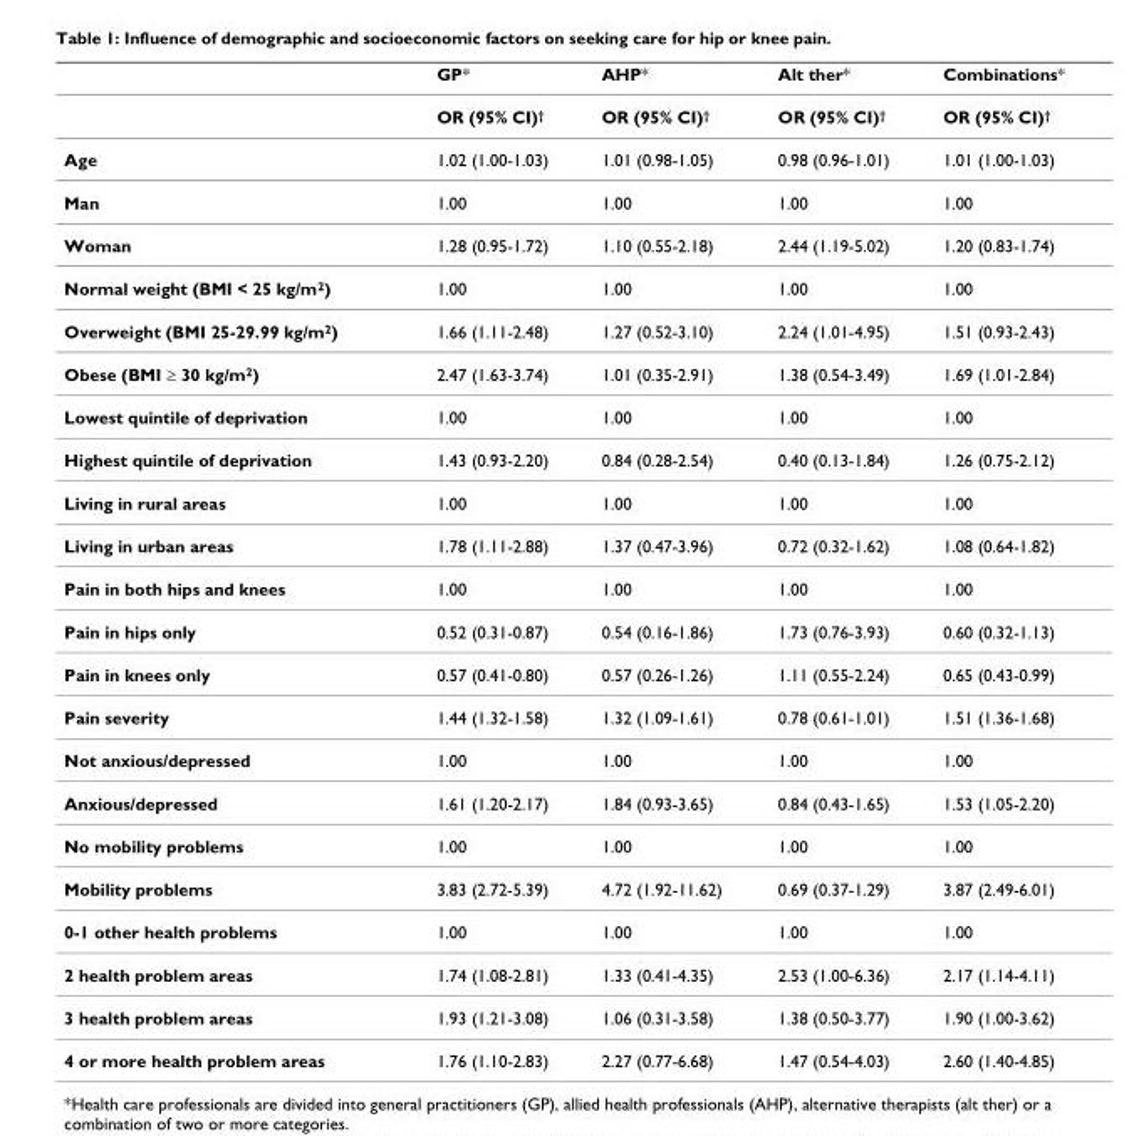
<table><thead><tr><td></td><td>GP*</td><td>AHP*</td><td>Alt ther*</td><td>Combinations*</td></tr></thead><tbody><tr><td></td><td>OR (95% CI)<sup>†</sup></td><td>OR (95% CI)<sup>†</sup></td><td>OR (95% CI)<sup>†</sup></td><td>OR (95% CI)<sup>†</sup></td></tr><tr><td>Age</td><td>1.02 (1.00-1.03)</td><td>1.01 (0.98-1.05)</td><td>0.98 (0.96-1.01)</td><td>1.01 (1.00-1.03)</td></tr><tr><td>Man</td><td>1.00</td><td>1.00</td><td>1.00</td><td>1.00</td></tr><tr><td>Woman</td><td>1.28 (0.95-1.72)</td><td>1.10 (0.55-2.18)</td><td>2.44 (1.19-5.02)</td><td>1.20 (0.83-1.74)</td></tr><tr><td>Normal weight (BMI &lt; 25 kg/m<sup>2</sup>)</td><td>1.00</td><td>1.00</td><td>1.00</td><td>1.00</td></tr><tr><td>Overweight (BMI 25-29.99 kg/m<sup>2</sup>)</td><td>1.66 (1.11-2.48)</td><td>1.27 (0.52-3.10)</td><td>2.24 (1.01-4.95)</td><td>1.51 (0.93-2.43)</td></tr><tr><td>Obese (BMI ≥ 30 kg/m<sup>2</sup>)</td><td>2.47 (1.63-3.74)</td><td>1.01 (0.35-2.91)</td><td>1.38 (0.54-3.49)</td><td>1.69 (1.01-2.84)</td></tr><tr><td>Lowest quintile of deprivation</td><td>1.00</td><td>1.00</td><td>1.00</td><td>1.00</td></tr><tr><td>Highest quintile of deprivation</td><td>1.43 (0.93-2.20)</td><td>0.84 (0.28-2.54)</td><td>0.40 (0.13-1.84)</td><td>1.26 (0.75-2.12)</td></tr><tr><td>Living in rural areas</td><td>1.00</td><td>1.00</td><td>1.00</td><td>1.00</td></tr><tr><td>Living in urban areas</td><td>1.78 (1.11-2.88)</td><td>1.37 (0.47-3.96)</td><td>0.72 (0.32-1.62)</td><td>1.08 (0.64-1.82)</td></tr><tr><td>Pain in both hips and knees</td><td>1.00</td><td>1.00</td><td>1.00</td><td>1.00</td></tr><tr><td>Pain in hips only</td><td>0.52 (0.31-0.87)</td><td>0.54 (0.16-1.86)</td><td>1.73 (0.76-3.93)</td><td>0.60 (0.32-1.13)</td></tr><tr><td>Pain in knees only</td><td>0.57 (0.41-0.80)</td><td>0.57 (0.26-1.26)</td><td>1.11 (0.55-2.24)</td><td>0.65 (0.43-0.99)</td></tr><tr><td>Pain severity</td><td>1.44 (1.32-1.58)</td><td>1.32 (1.09-1.61)</td><td>0.78 (0.61-1.01)</td><td>1.51 (1.36-1.68)</td></tr><tr><td>Not anxious/depressed</td><td>1.00</td><td>1.00</td><td>1.00</td><td>1.00</td></tr><tr><td>Anxious/depressed</td><td>1.61 (1.20-2.17)</td><td>1.84 (0.93-3.65)</td><td>0.84 (0.43-1.65)</td><td>1.53 (1.05-2.20)</td></tr><tr><td>No mobility problems</td><td>1.00</td><td>1.00</td><td>1.00</td><td>1.00</td></tr><tr><td>Mobility problems</td><td>3.83 (2.72-5.39)</td><td>4.72 (1.92-11.62)</td><td>0.69 (0.37-1.29)</td><td>3.87 (2.49-6.01)</td></tr><tr><td>0-1 other health problems</td><td>1.00</td><td>1.00</td><td>1.00</td><td>1.00</td></tr><tr><td>2 health problem areas</td><td>1.74 (1.08-2.81)</td><td>1.33 (0.41-4.35)</td><td>2.53 (1.00-6.36)</td><td>2.17 (1.14-4.11)</td></tr><tr><td>3 health problem areas</td><td>1.93 (1.21-3.08)</td><td>1.06 (0.31-3.58)</td><td>1.38 (0.50-3.77)</td><td>1.90 (1.00-3.62)</td></tr><tr><td>4 or more health problem areas</td><td>1.76 (1.10-2.83)</td><td>2.27 (0.77-6.68)</td><td>1.47 (0.54-4.03)</td><td>2.60 (1.40-4.85)</td></tr></tbody></table>